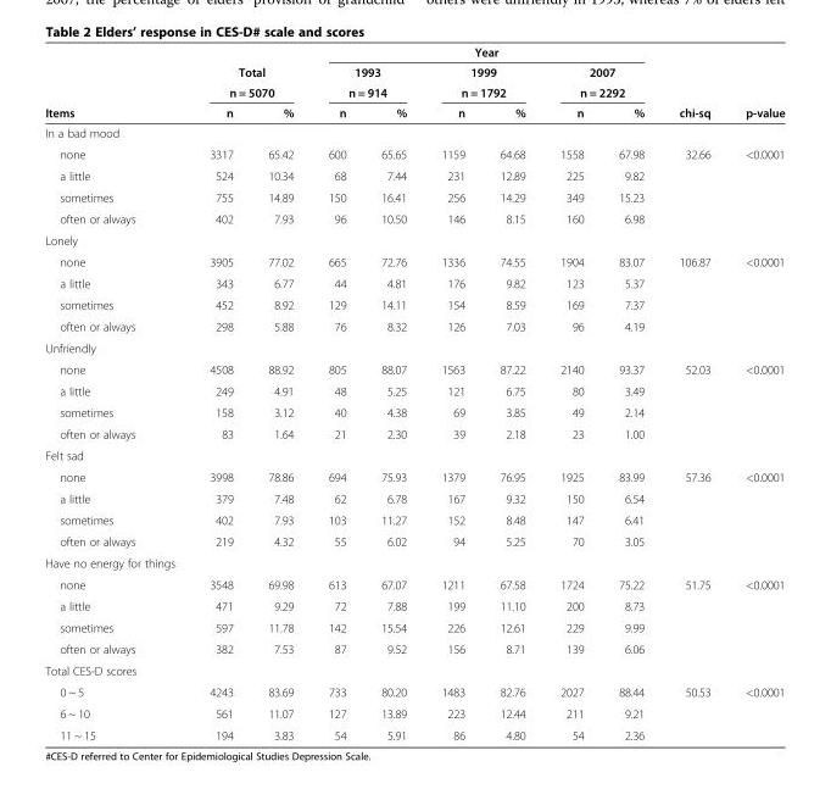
<table><thead><tr><td rowspan="4">Items</td><td></td><td></td><td colspan="6">Year</td><td rowspan="4">chi-sq</td><td rowspan="4">p-value</td></tr><tr><td rowspan="2" colspan="2">Total n = 5070</td><td rowspan="2" colspan="2">1993 n = 914</td><td rowspan="2" colspan="2">1999 n = 1792</td><td rowspan="2" colspan="2">2007 n = 2292</td></tr><tr></tr><tr><td>n</td><td>%</td><td>n</td><td>%</td><td>n</td><td>%</td><td>n</td><td>%</td></tr></thead><tbody><tr><td colspan="11">In a bad mood</td></tr><tr><td>none</td><td>3317</td><td>65.42</td><td>600</td><td>65.65</td><td>1159</td><td>64.68</td><td>1558</td><td>67.98</td><td>32.66</td><td>&lt;0.0001</td></tr><tr><td>a little</td><td>524</td><td>10.34</td><td>68</td><td>7.44</td><td>231</td><td>12.89</td><td>225</td><td>9.82</td><td></td><td></td></tr><tr><td>sometimes</td><td>755</td><td>14.89</td><td>150</td><td>16.41</td><td>256</td><td>14.29</td><td>349</td><td>15.23</td><td></td><td></td></tr><tr><td>often or always</td><td>402</td><td>7.93</td><td>96</td><td>10.50</td><td>146</td><td>8.15</td><td>160</td><td>6.98</td><td></td><td></td></tr><tr><td colspan="11">Lonely</td></tr><tr><td>none</td><td>3905</td><td>77.02</td><td>665</td><td>72.76</td><td>1336</td><td>74.55</td><td>1904</td><td>83.07</td><td>106.87</td><td>&lt;0.0001</td></tr><tr><td>a little</td><td>343</td><td>6.77</td><td>44</td><td>4.81</td><td>176</td><td>9.82</td><td>123</td><td>5.37</td><td></td><td></td></tr><tr><td>sometimes</td><td>452</td><td>8.92</td><td>129</td><td>14.11</td><td>154</td><td>8.59</td><td>169</td><td>7.37</td><td></td><td></td></tr><tr><td>often or always</td><td>298</td><td>5.88</td><td>76</td><td>8.32</td><td>126</td><td>7.03</td><td>96</td><td>4.19</td><td></td><td></td></tr><tr><td colspan="11">Unfriendly</td></tr><tr><td>none</td><td>4508</td><td>88.92</td><td>805</td><td>88.07</td><td>1563</td><td>87.22</td><td>2140</td><td>93.37</td><td>52.03</td><td>&lt;0.0001</td></tr><tr><td>a little</td><td>249</td><td>4.91</td><td>48</td><td>5.25</td><td>121</td><td>6.75</td><td>80</td><td>3.49</td><td></td><td></td></tr><tr><td>sometimes</td><td>158</td><td>3.12</td><td>40</td><td>4.38</td><td>69</td><td>3.85</td><td>49</td><td>2.14</td><td></td><td></td></tr><tr><td>often or always</td><td>83</td><td>1.64</td><td>21</td><td>2.30</td><td>39</td><td>2.18</td><td>23</td><td>1.00</td><td></td><td></td></tr><tr><td colspan="11">Felt sad</td></tr><tr><td>none</td><td>3998</td><td>78.86</td><td>694</td><td>75.93</td><td>1379</td><td>76.95</td><td>1925</td><td>83.99</td><td>57.36</td><td>&lt;0.0001</td></tr><tr><td>a little</td><td>379</td><td>7.48</td><td>62</td><td>6.78</td><td>167</td><td>9.32</td><td>150</td><td>6.54</td><td></td><td></td></tr><tr><td>sometimes</td><td>402</td><td>7.93</td><td>103</td><td>11.27</td><td>152</td><td>8.48</td><td>147</td><td>6.41</td><td></td><td></td></tr><tr><td>often or always</td><td>219</td><td>4.32</td><td>55</td><td>6.02</td><td>94</td><td>5.25</td><td>70</td><td>3.05</td><td></td><td></td></tr><tr><td colspan="11">Have no energy for things</td></tr><tr><td>none</td><td>3548</td><td>69.98</td><td>613</td><td>67.07</td><td>1211</td><td>67.58</td><td>1724</td><td>75.22</td><td>51.75</td><td>&lt;0.0001</td></tr><tr><td>a little</td><td>471</td><td>9.29</td><td>72</td><td>7.88</td><td>199</td><td>11.10</td><td>200</td><td>8.73</td><td></td><td></td></tr><tr><td>sometimes</td><td>597</td><td>11.78</td><td>142</td><td>15.54</td><td>226</td><td>12.61</td><td>229</td><td>9.99</td><td></td><td></td></tr><tr><td>often or always</td><td>382</td><td>7.53</td><td>87</td><td>9.52</td><td>156</td><td>8.71</td><td>139</td><td>6.06</td><td></td><td></td></tr><tr><td colspan="11">Total CES-D scores</td></tr><tr><td>0 ~ 5</td><td>4243</td><td>83.69</td><td>733</td><td>80.20</td><td>1483</td><td>82.76</td><td>2027</td><td>88.44</td><td>50.53</td><td>&lt;0.0001</td></tr><tr><td>6 ~ 10</td><td>561</td><td>11.07</td><td>127</td><td>13.89</td><td>223</td><td>12.44</td><td>211</td><td>9.21</td><td></td><td></td></tr><tr><td>11 ~ 15</td><td>194</td><td>3.83</td><td>54</td><td>5.91</td><td>86</td><td>4.80</td><td>54</td><td>2.36</td><td></td><td></td></tr></tbody></table>